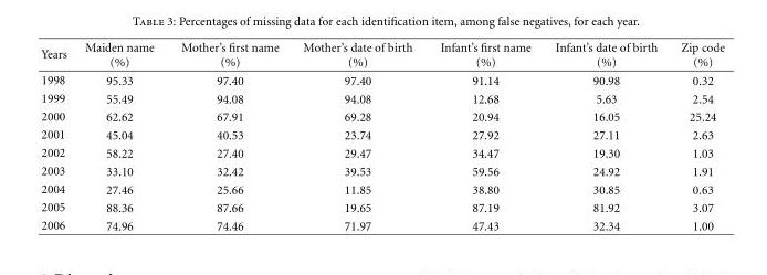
<table><thead><tr><td>Years</td><td>Maiden name (%)</td><td>Mother’s first name (%)</td><td>Mother’s date of birth (%)</td><td>Infant’s first name (%)</td><td>Infant’s date of birth (%)</td><td>Zip code (%)</td></tr></thead><tbody><tr><td>1998</td><td>95.33</td><td>97.40</td><td>97.40</td><td>91.14</td><td>90.98</td><td>0.32</td></tr><tr><td>1999</td><td>55.49</td><td>94.08</td><td>94.08</td><td>12.68</td><td>5.63</td><td>2.54</td></tr><tr><td>2000</td><td>62.62</td><td>67.91</td><td>69.28</td><td>20.94</td><td>16.05</td><td>25.24</td></tr><tr><td>2001</td><td>45.04</td><td>40.53</td><td>23.74</td><td>27.92</td><td>27.11</td><td>2.63</td></tr><tr><td>2002</td><td>58.22</td><td>27.40</td><td>29.47</td><td>34.47</td><td>19.30</td><td>1.03</td></tr><tr><td>2003</td><td>33.10</td><td>32.42</td><td>39.53</td><td>59.56</td><td>24.92</td><td>1.91</td></tr><tr><td>2004</td><td>27.46</td><td>25.66</td><td>11.85</td><td>38.80</td><td>30.85</td><td>0.63</td></tr><tr><td>2005</td><td>88.36</td><td>87.66</td><td>19.65</td><td>87.19</td><td>81.92</td><td>3.07</td></tr><tr><td>2006</td><td>74.96</td><td>74.46</td><td>71.97</td><td>47.43</td><td>32.34</td><td>1.00</td></tr></tbody></table>